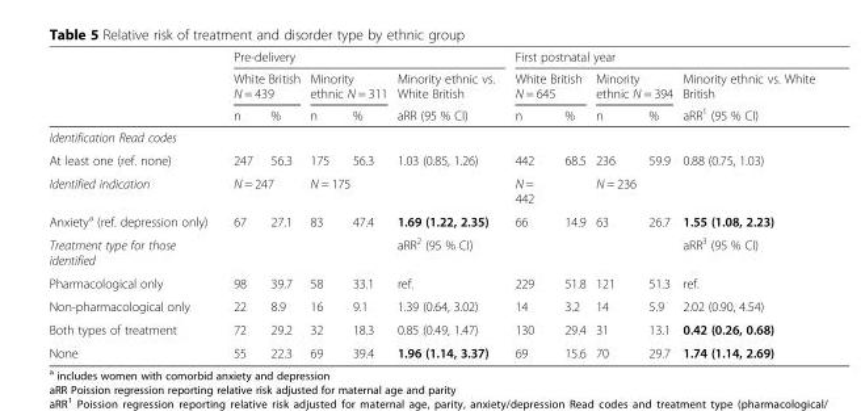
<table><thead><tr><td rowspan="3"></td><td colspan="5">Pre-delivery</td><td colspan="5">First postnatal year</td></tr><tr><td colspan="2">White British N = 439</td><td colspan="2">Minority ethnic N = 311</td><td rowspan="2">Minority ethnic vs. White British aRR (95 % CI)</td><td colspan="2">White British N = 645</td><td colspan="2">Minority ethnic N = 394</td><td rowspan="2">Minority ethnic vs. White British aRR<sup>1</sup> (95 % CI)</td></tr><tr><td>n</td><td>%</td><td>n</td><td>%</td><td>n</td><td>%</td><td>n</td><td>%</td></tr></thead><tbody><tr><td colspan="11">Identification Read codes</td></tr><tr><td>At least one (ref. none)</td><td>247</td><td>56.3</td><td>175</td><td>56.3</td><td>1.03 (0.85, 1.26)</td><td>442</td><td>68.5</td><td>236</td><td>59.9</td><td>0.88 (0.75, 1.03)</td></tr><tr><td>Identified indication</td><td colspan="2">N = 247</td><td colspan="2">N = 175</td><td></td><td>N = 442</td><td></td><td>N = 236</td><td></td><td></td></tr><tr><td>Anxiety<sup>a</sup> (ref. depression only)</td><td>67</td><td>27.1</td><td>83</td><td>47.4</td><td>1.69 (1.22, 2.35)</td><td>66</td><td>14.9</td><td>63</td><td>26.7</td><td>1.55 (1.08, 2.23)</td></tr><tr><td>Treatment type for those identified</td><td></td><td></td><td></td><td></td><td>aRR<sup>2</sup> (95 % CI)</td><td></td><td></td><td></td><td></td><td>aRR<sup>3</sup> (95 % CI)</td></tr><tr><td>Pharmacological only</td><td>98</td><td>39.7</td><td>58</td><td>33.1</td><td>ref.</td><td>229</td><td>51.8</td><td>121</td><td>51.3</td><td>ref.</td></tr><tr><td>Non-pharmacological only</td><td>22</td><td>8.9</td><td>16</td><td>9.1</td><td>1.39 (0.64, 3.02)</td><td>14</td><td>3.2</td><td>14</td><td>5.9</td><td>2.02 (0.90, 4.54)</td></tr><tr><td>Both types of treatment</td><td>72</td><td>29.2</td><td>32</td><td>18.3</td><td>0.85 (0.49, 1.47)</td><td>130</td><td>29.4</td><td>31</td><td>13.1</td><td>0.42 (0.26, 0.68)</td></tr><tr><td>None</td><td>55</td><td>22.3</td><td>69</td><td>39.4</td><td>1.96 (1.14, 3.37)</td><td>69</td><td>15.6</td><td>70</td><td>29.7</td><td>1.74 (1.14, 2.69)</td></tr></tbody></table>